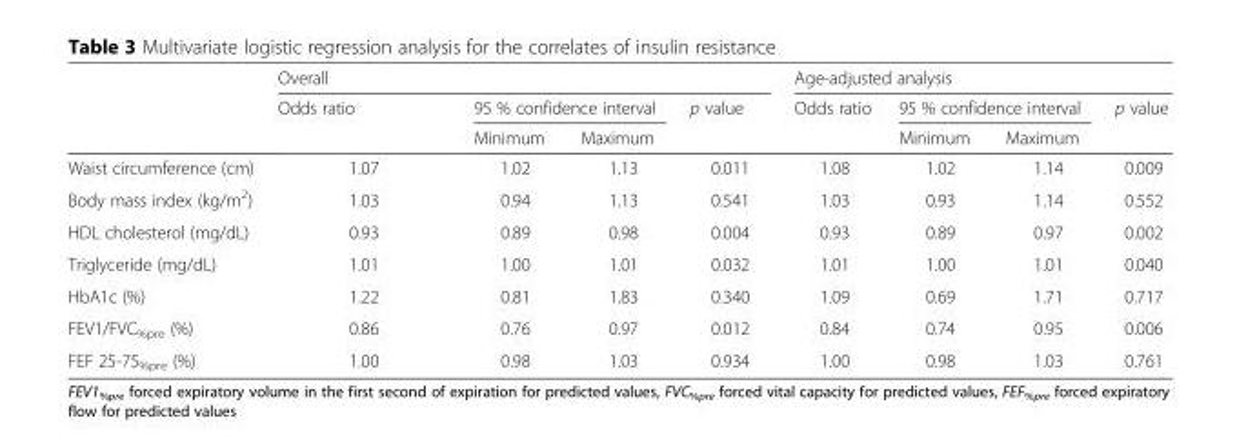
<table><thead><tr><td rowspan="3"></td><td colspan="4">Overall</td><td colspan="4">Age-adjusted analysis</td></tr><tr><td rowspan="2">Odds ratio</td><td colspan="2">95 % confidence interval</td><td rowspan="2">p value</td><td rowspan="2">Odds ratio</td><td colspan="2">95 % confidence interval</td><td rowspan="2">p value</td></tr><tr><td>Minimum</td><td>Maximum</td><td>Minimum</td><td>Maximum</td></tr></thead><tbody><tr><td>Waist circumference (cm)</td><td>1.07</td><td>1.02</td><td>1.13</td><td>0.011</td><td>1.08</td><td>1.02</td><td>1.14</td><td>0.009</td></tr><tr><td>Body mass index (kg/m<sup>2</sup>)</td><td>1.03</td><td>0.94</td><td>1.13</td><td>0.541</td><td>1.03</td><td>0.93</td><td>1.14</td><td>0.552</td></tr><tr><td>HDL cholesterol (mg/dL)</td><td>0.93</td><td>0.89</td><td>0.98</td><td>0.004</td><td>0.93</td><td>0.89</td><td>0.97</td><td>0.002</td></tr><tr><td>Triglyceride (mg/dL)</td><td>1.01</td><td>1.00</td><td>1.01</td><td>0.032</td><td>1.01</td><td>1.00</td><td>1.01</td><td>0.040</td></tr><tr><td>HbA1c (%)</td><td>1.22</td><td>0.81</td><td>1.83</td><td>0.340</td><td>1.09</td><td>0.69</td><td>1.71</td><td>0.717</td></tr><tr><td>FEV1/FVC<sub>%pre</sub> (%)</td><td>0.86</td><td>0.76</td><td>0.97</td><td>0.012</td><td>0.84</td><td>0.74</td><td>0.95</td><td>0.006</td></tr><tr><td>FEF 25-75<sub>%pre</sub> (%)</td><td>1.00</td><td>0.98</td><td>1.03</td><td>0.934</td><td>1.00</td><td>0.98</td><td>1.03</td><td>0.761</td></tr></tbody></table>